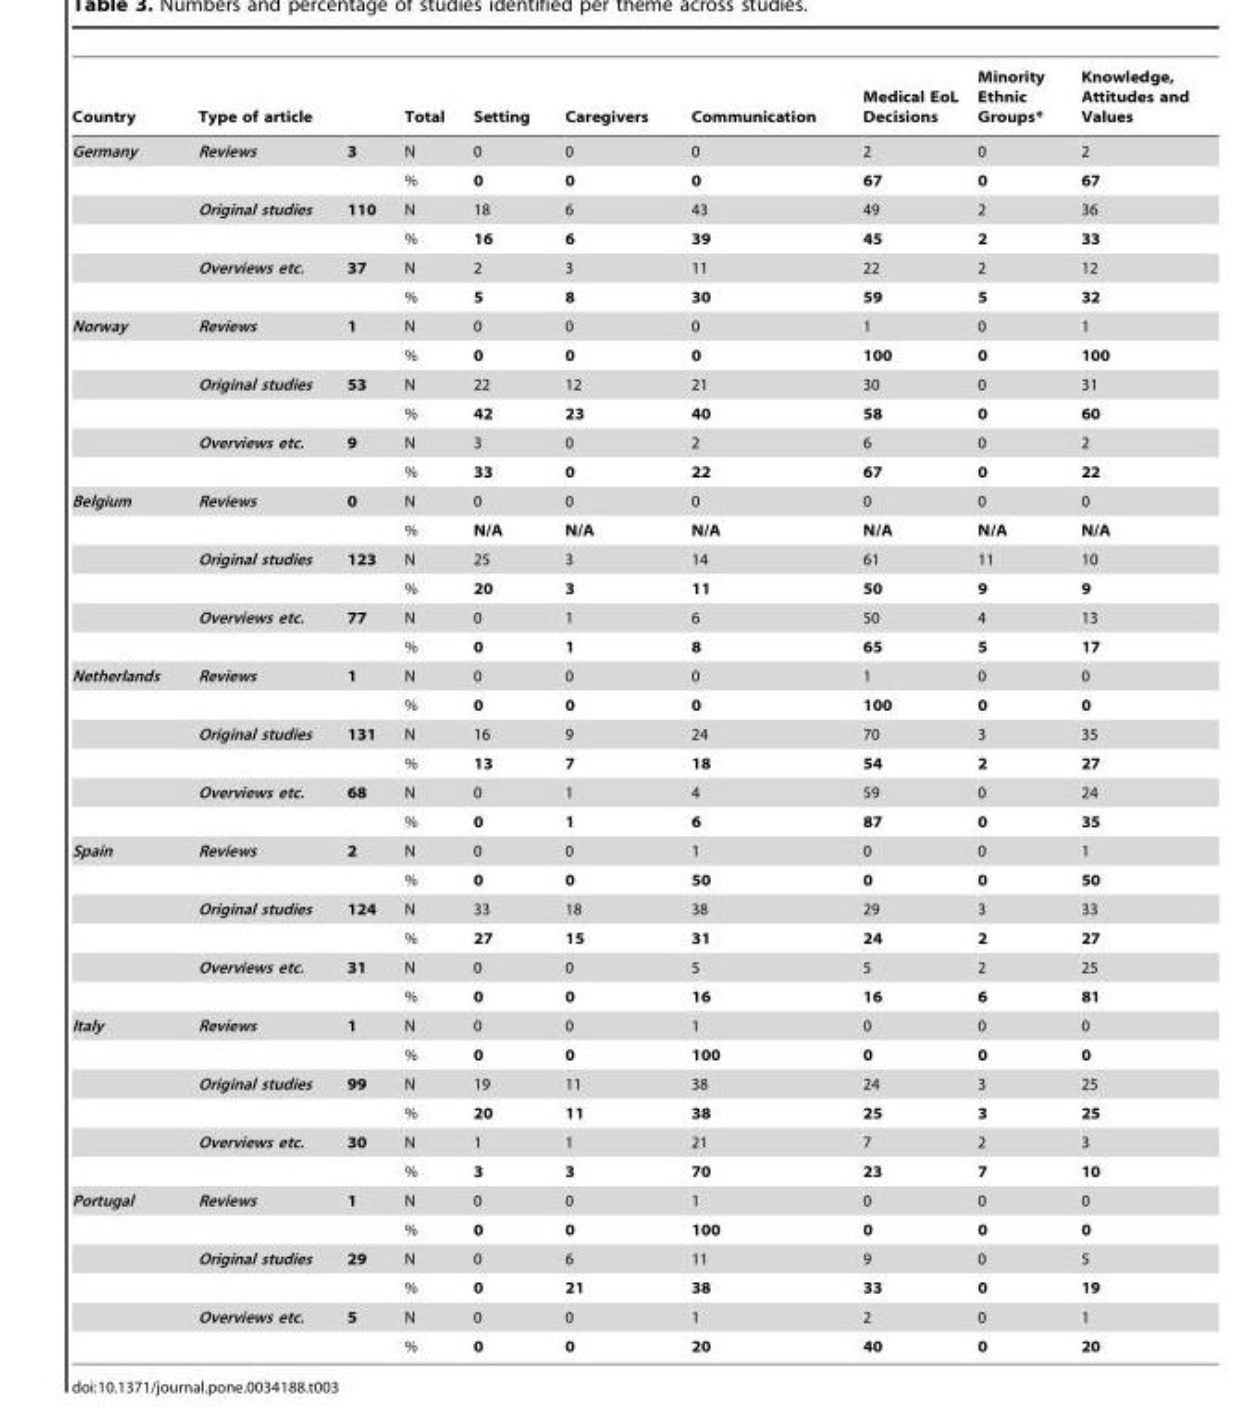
<table><thead><tr><td>Country</td><td>Type of article</td><td></td><td>Total</td><td>Setting</td><td>Caregivers</td><td>Communication</td><td>Medical EoL Decisions</td><td>Minority Ethnic Groups*</td><td>Knowledge, Attitudes and Values</td></tr></thead><tbody><tr><td rowspan="6">Germany</td><td>Reviews</td><td>3</td><td>N</td><td>0</td><td>0</td><td>0</td><td>2</td><td>0</td><td>2</td></tr><tr><td></td><td></td><td>%</td><td>0</td><td>0</td><td>0</td><td>67</td><td>0</td><td>67</td></tr><tr><td>Original studies</td><td>110</td><td>N</td><td>18</td><td>6</td><td>43</td><td>49</td><td>2</td><td>36</td></tr><tr><td></td><td></td><td>%</td><td>16</td><td>6</td><td>39</td><td>45</td><td>2</td><td>33</td></tr><tr><td>Overviews etc.</td><td>37</td><td>N</td><td>2</td><td>3</td><td>11</td><td>22</td><td>2</td><td>12</td></tr><tr><td></td><td></td><td>%</td><td>5</td><td>8</td><td>30</td><td>59</td><td>5</td><td>32</td></tr><tr><td rowspan="6">Norway</td><td>Reviews</td><td>1</td><td>N</td><td>0</td><td>0</td><td>0</td><td>1</td><td>0</td><td>1</td></tr><tr><td></td><td></td><td>%</td><td>0</td><td>0</td><td>0</td><td>100</td><td>0</td><td>100</td></tr><tr><td>Original studies</td><td>53</td><td>N</td><td>22</td><td>12</td><td>21</td><td>30</td><td>0</td><td>31</td></tr><tr><td></td><td></td><td>%</td><td>42</td><td>23</td><td>40</td><td>58</td><td>0</td><td>60</td></tr><tr><td>Overviews etc.</td><td>9</td><td>N</td><td>3</td><td>0</td><td>2</td><td>6</td><td>0</td><td>2</td></tr><tr><td></td><td></td><td>%</td><td>33</td><td>0</td><td>22</td><td>67</td><td>0</td><td>22</td></tr><tr><td rowspan="6">Belgium</td><td>Reviews</td><td>0</td><td>N</td><td>0</td><td>0</td><td>0</td><td>0</td><td>0</td><td>0</td></tr><tr><td></td><td></td><td>%</td><td>N/A</td><td>N/A</td><td>N/A</td><td>N/A</td><td>N/A</td><td>N/A</td></tr><tr><td>Original studies</td><td>123</td><td>N</td><td>25</td><td>3</td><td>14</td><td>61</td><td>11</td><td>10</td></tr><tr><td></td><td></td><td>%</td><td>20</td><td>3</td><td>11</td><td>50</td><td>9</td><td>9</td></tr><tr><td>Overviews etc.</td><td>77</td><td>N</td><td>0</td><td>1</td><td>6</td><td>50</td><td>4</td><td>13</td></tr><tr><td></td><td></td><td>%</td><td>0</td><td>1</td><td>8</td><td>65</td><td>5</td><td>17</td></tr><tr><td rowspan="6">Netherlands</td><td>Reviews</td><td>1</td><td>N</td><td>0</td><td>0</td><td>0</td><td>1</td><td>0</td><td>0</td></tr><tr><td></td><td></td><td>%</td><td>0</td><td>0</td><td>0</td><td>100</td><td>0</td><td>0</td></tr><tr><td>Original studies</td><td>131</td><td>N</td><td>16</td><td>9</td><td>24</td><td>70</td><td>3</td><td>35</td></tr><tr><td></td><td></td><td>%</td><td>13</td><td>7</td><td>18</td><td>54</td><td>2</td><td>27</td></tr><tr><td>Overviews etc.</td><td>68</td><td>N</td><td>0</td><td>1</td><td>4</td><td>59</td><td>0</td><td>24</td></tr><tr><td></td><td></td><td>%</td><td>0</td><td>1</td><td>6</td><td>87</td><td>0</td><td>35</td></tr><tr><td rowspan="6">Spain</td><td>Reviews</td><td>2</td><td>N</td><td>0</td><td>0</td><td>1</td><td>0</td><td>0</td><td>1</td></tr><tr><td></td><td></td><td>%</td><td>0</td><td>0</td><td>50</td><td>0</td><td>0</td><td>50</td></tr><tr><td>Original studies</td><td>124</td><td>N</td><td>33</td><td>18</td><td>38</td><td>29</td><td>3</td><td>33</td></tr><tr><td></td><td></td><td>%</td><td>27</td><td>15</td><td>31</td><td>24</td><td>2</td><td>27</td></tr><tr><td>Overviews etc.</td><td>31</td><td>N</td><td>0</td><td>0</td><td>5</td><td>5</td><td>2</td><td>25</td></tr><tr><td></td><td></td><td>%</td><td>0</td><td>0</td><td>16</td><td>16</td><td>6</td><td>81</td></tr><tr><td rowspan="6">Italy</td><td>Reviews</td><td>1</td><td>N</td><td>0</td><td>0</td><td>1</td><td>0</td><td>0</td><td>0</td></tr><tr><td></td><td></td><td>%</td><td>0</td><td>0</td><td>100</td><td>0</td><td>0</td><td>0</td></tr><tr><td>Original studies</td><td>99</td><td>N</td><td>19</td><td>11</td><td>38</td><td>24</td><td>3</td><td>25</td></tr><tr><td></td><td></td><td>%</td><td>20</td><td>11</td><td>38</td><td>25</td><td>3</td><td>25</td></tr><tr><td>Overviews etc.</td><td>30</td><td>N</td><td>1</td><td>1</td><td>21</td><td>7</td><td>2</td><td>3</td></tr><tr><td></td><td></td><td>%</td><td>3</td><td>3</td><td>70</td><td>23</td><td>7</td><td>10</td></tr><tr><td rowspan="6">Portugal</td><td>Reviews</td><td>1</td><td>N</td><td>0</td><td>0</td><td>1</td><td>0</td><td>0</td><td>0</td></tr><tr><td></td><td></td><td>%</td><td>0</td><td>0</td><td>100</td><td>0</td><td>0</td><td>0</td></tr><tr><td>Original studies</td><td>29</td><td>N</td><td>0</td><td>6</td><td>11</td><td>9</td><td>0</td><td>5</td></tr><tr><td></td><td></td><td>%</td><td>0</td><td>21</td><td>38</td><td>33</td><td>0</td><td>19</td></tr><tr><td>Overviews etc.</td><td>5</td><td>N</td><td>0</td><td>0</td><td>1</td><td>2</td><td>0</td><td>1</td></tr><tr><td></td><td></td><td>%</td><td>0</td><td>0</td><td>20</td><td>40</td><td>0</td><td>20</td></tr></tbody></table>